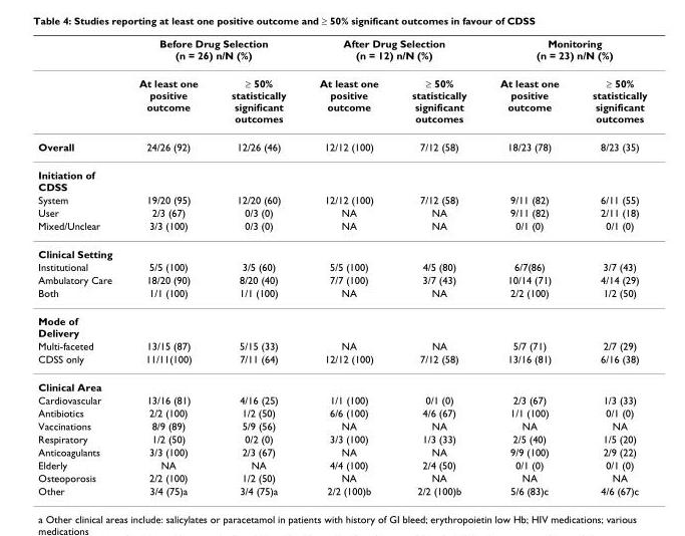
<table><thead><tr><td rowspan="2"></td><td colspan="2">Before Drug Selection (n = 26) n/N (%)</td><td colspan="2">After Drug Selection (n = 12) n/N (%)</td><td colspan="2">Monitoring (n = 23) n/N (%)</td></tr><tr><td>At least one positive outcome</td><td>≥ 50% statistically significant outcomes</td><td>At least one positive outcome</td><td>≥ 50% statistically significant outcomes</td><td>At least one positive outcome</td><td>≥ 50% statistically significant outcomes</td></tr></thead><tbody><tr><td>Overall</td><td>24/26 (92)</td><td>12/26 (46)</td><td>12/12 (100)</td><td>7/12 (58)</td><td>18/23 (78)</td><td>8/23 (35)</td></tr><tr><td colspan="7">Initiation of CDSS</td></tr><tr><td>System</td><td>19/20 (95)</td><td>12/20 (60)</td><td>12/12 (100)</td><td>7/12 (58)</td><td>9/11 (82)</td><td>6/11 (55)</td></tr><tr><td>User</td><td>2/3 (67)</td><td>0/3 (0)</td><td>NA</td><td>NA</td><td>9/11 (82)</td><td>2/11 (18)</td></tr><tr><td>Mixed/Unclear</td><td>3/3 (100)</td><td>0/3 (0)</td><td>NA</td><td>NA</td><td>0/1 (0)</td><td>0/1 (0)</td></tr><tr><td colspan="7">Clinical Setting</td></tr><tr><td>Institutional</td><td>5/5 (100)</td><td>3/5 (60)</td><td>5/5 (100)</td><td>4/5 (80)</td><td>6/7(86)</td><td>3/7 (43)</td></tr><tr><td>Ambulatory Care</td><td>18/20 (90)</td><td>8/20 (40)</td><td>7/7 (100)</td><td>3/7 (43)</td><td>10/14 (71)</td><td>4/14 (29)</td></tr><tr><td>Both</td><td>1/1 (100)</td><td>1/1 (100)</td><td>NA</td><td>NA</td><td>2/2 (100)</td><td>1/2 (50)</td></tr><tr><td colspan="7">Mode of Delivery</td></tr><tr><td>Multi-faceted</td><td>13/15 (87)</td><td>5/15 (33)</td><td>NA</td><td>NA</td><td>5/7 (71)</td><td>2/7 (29)</td></tr><tr><td>CDSS only</td><td>11/11(100)</td><td>7/11 (64)</td><td>12/12 (100)</td><td>7/12 (58)</td><td>13/16 (81)</td><td>6/16 (38)</td></tr><tr><td colspan="7">Clinical Area</td></tr><tr><td>Cardiovascular</td><td>13/16 (81)</td><td>4/16 (25)</td><td>1/1 (100)</td><td>0/1 (0)</td><td>2/3 (67)</td><td>1/3 (33)</td></tr><tr><td>Antibiotics</td><td>2/2 (100)</td><td>1/2 (50)</td><td>6/6 (100)</td><td>4/6 (67)</td><td>1/1 (100)</td><td>0/1 (0)</td></tr><tr><td>Vaccinations</td><td>8/9 (89)</td><td>5/9 (56)</td><td>NA</td><td>NA</td><td>NA</td><td>NA</td></tr><tr><td>Respiratory</td><td>1/2 (50)</td><td>0/2 (0)</td><td>3/3 (100)</td><td>1/3 (33)</td><td>2/5 (40)</td><td>1/5 (20)</td></tr><tr><td>Anticoagulants</td><td>3/3 (100)</td><td>2/3 (67)</td><td>NA</td><td>NA</td><td>9/9 (100)</td><td>2/9 (22)</td></tr><tr><td>Elderly</td><td>NA</td><td>NA</td><td>4/4 (100)</td><td>2/4 (50)</td><td>0/1 (0)</td><td>0/1 (0)</td></tr><tr><td>Osteoporosis</td><td>2/2 (100)</td><td>1/2 (50)</td><td>NA</td><td>NA</td><td>NA</td><td>NA</td></tr><tr><td>Other</td><td>3/4 (75)a</td><td>3/4 (75)a</td><td>2/2 (100)b</td><td>2/2 (100)b</td><td>5/6 (83)c</td><td>4/6 (67)c</td></tr></tbody></table>